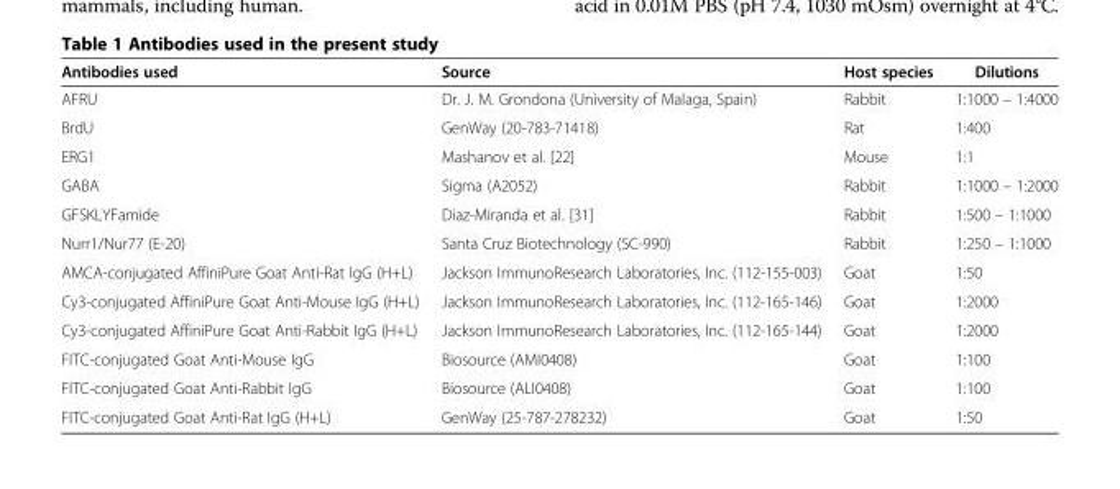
<table><thead><tr><td>Antibodies used</td><td>Source</td><td>Host species</td><td>Dilutions</td></tr></thead><tbody><tr><td>AFRU</td><td>Dr. J. M. Grondona (University of Malaga, Spain)</td><td>Rabbit</td><td>1:1000 – 1:4000</td></tr><tr><td>BrdU</td><td>GenWay (20-783-71418)</td><td>Rat</td><td>1:400</td></tr><tr><td>ERG1</td><td>Mashanov et al. [22]</td><td>Mouse</td><td>1:1</td></tr><tr><td>GABA</td><td>Sigma (A2052)</td><td>Rabbit</td><td>1:1000 – 1:2000</td></tr><tr><td>GFSKLYFamide</td><td>Diaz-Miranda et al. [31]</td><td>Rabbit</td><td>1:500 – 1:1000</td></tr><tr><td>Nurr1/Nur77 (E-20)</td><td>Santa Cruz Biotechnology (SC-990)</td><td>Rabbit</td><td>1:250 – 1:1000</td></tr><tr><td>AMCA-conjugated AffiniPure Goat Anti-Rat IgG (H+L)</td><td>Jackson ImmunoResearch Laboratories, Inc. (112-155-003)</td><td>Goat</td><td>1:50</td></tr><tr><td>Cy3-conjugated AffiniPure Goat Anti-Mouse IgG (H+L)</td><td>Jackson ImmunoResearch Laboratories, Inc. (112-165-146)</td><td>Goat</td><td>1:2000</td></tr><tr><td>Cy3-conjugated AffiniPure Goat Anti-Rabbit IgG (H+L)</td><td>Jackson ImmunoResearch Laboratories, Inc. (112-165-144)</td><td>Goat</td><td>1:2000</td></tr><tr><td>FITC-conjugated Goat Anti-Mouse IgG</td><td>Biosource (AMI0408)</td><td>Goat</td><td>1:100</td></tr><tr><td>FITC-conjugated Goat Anti-Rabbit IgG</td><td>Biosource (ALI0408)</td><td>Goat</td><td>1:100</td></tr><tr><td>FITC-conjugated Goat Anti-Rat IgG (H+L)</td><td>GenWay (25-787-278232)</td><td>Goat</td><td>1:50</td></tr></tbody></table>